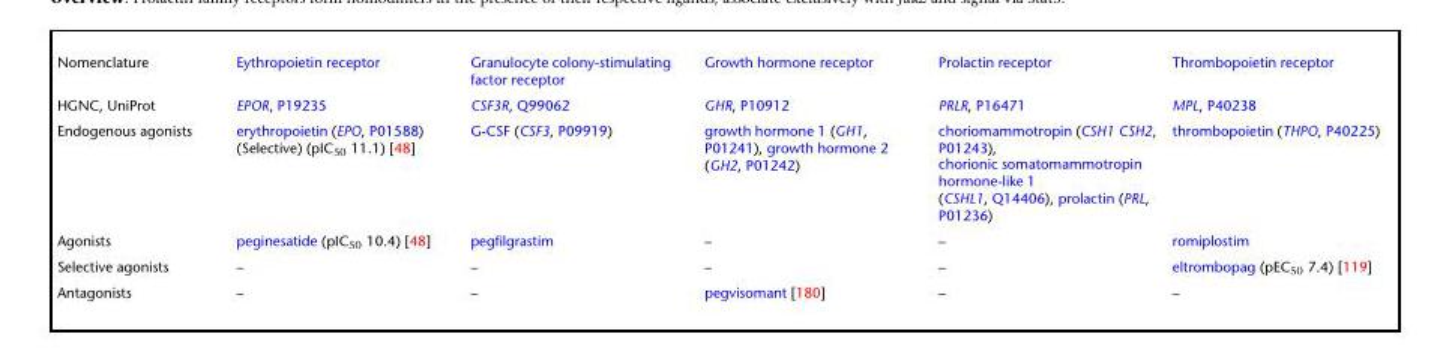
<table><tbody><tr><td>Nomenclature</td><td>Eythropoietin receptor</td><td>Granulocyte colony-stimulating factor receptor</td><td>Growth hormone receptor</td><td>Prolactin receptor</td><td>Thrombopoietin receptor</td></tr><tr><td>HGNC, UniProt</td><td>EPOR, P19235</td><td>CSF3R, Q99062</td><td>GHR, P10912</td><td>PRLR, P16471</td><td>MPL, P40238</td></tr><tr><td>Endogenous agonists</td><td>erythropoietin (EPO, P01588) (Selective) (pIC<sub>50</sub> 11.1) [48]</td><td>G-CSF (CSF3, P09919)</td><td>growth hormone 1 (GH1, P01241), growth hormone 2 (GH2, P01242)</td><td>choriomammotropin (CSH1 CSH2, P01243), chorionic somatomammotropin hormone-like 1 (CSHL1, Q14406), prolactin (PRL, P01236)</td><td>thrombopoietin (THPO, P40225)</td></tr><tr><td>Agonists</td><td>peginesatide (pIC<sub>50</sub> 10.4) [48]</td><td>pegfilgrastim</td><td>–</td><td>–</td><td>romiplostim</td></tr><tr><td>Selective agonists</td><td>–</td><td>–</td><td>–</td><td>–</td><td>eltrombopag (pEC<sub>50</sub> 7.4) [119]</td></tr><tr><td>Antagonists</td><td>–</td><td>–</td><td>pegvisomant [180]</td><td>–</td><td>–</td></tr></tbody></table>